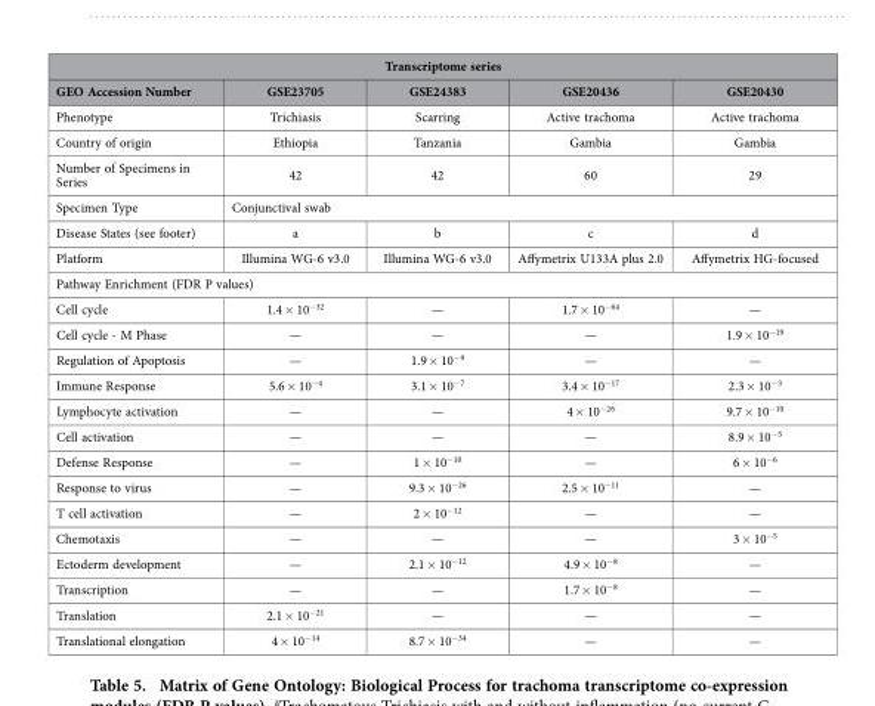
<table><thead><tr><td colspan="5">Transcriptome series</td></tr><tr><td>GEO Accession Number</td><td>GSE23705</td><td>GSE24383</td><td>GSE20436</td><td>GSE20430</td></tr></thead><tbody><tr><td>Phenotype</td><td>Trichiasis</td><td>Scarring</td><td>Active trachoma</td><td>Active trachoma</td></tr><tr><td>Country of origin</td><td>Ethiopia</td><td>Tanzania</td><td>Gambia</td><td>Gambia</td></tr><tr><td>Number of Specimens in Series</td><td>42</td><td>42</td><td>60</td><td>29</td></tr><tr><td>Specimen Type</td><td colspan="4">Conjunctival swab</td></tr><tr><td>Disease States (see footer)</td><td>a</td><td>b</td><td>c</td><td>d</td></tr><tr><td>Platform</td><td>Illumina WG-6 v3.0</td><td>Illumina WG-6 v3.0</td><td>Affymetrix U133A plus 2.0</td><td>Affymetrix HG-focused</td></tr><tr><td colspan="5">Pathway Enrichment (FDR P values)</td></tr><tr><td>Cell cycle</td><td>1.4 × 10<sup>−32</sup></td><td>—</td><td>1.7 × 10<sup>−64</sup></td><td>—</td></tr><tr><td>Cell cycle - M Phase</td><td>—</td><td>—</td><td>—</td><td>1.9 × 10<sup>−19</sup></td></tr><tr><td>Regulation of Apoptosis</td><td>—</td><td>1.9 × 10<sup>−9</sup></td><td>—</td><td>—</td></tr><tr><td>Immune Response</td><td>5.6 × 10<sup>−4</sup></td><td>3.1 × 10<sup>−7</sup></td><td>3.4 × 10<sup>−17</sup></td><td>2.3 × 10<sup>−3</sup></td></tr><tr><td>Lymphocyte activation</td><td>—</td><td>—</td><td>4 × 10<sup>−26</sup></td><td>9.7 × 10<sup>−10</sup></td></tr><tr><td>Cell activation</td><td>—</td><td>—</td><td>—</td><td>8.9 × 10<sup>−5</sup></td></tr><tr><td>Defense Response</td><td>—</td><td>1 × 10<sup>−10</sup></td><td>—</td><td>6 × 10<sup>−6</sup></td></tr><tr><td>Response to virus</td><td>—</td><td>9.3 × 10<sup>−26</sup></td><td>2.5 × 10<sup>−11</sup></td><td>—</td></tr><tr><td>T cell activation</td><td>—</td><td>2 × 10<sup>−12</sup></td><td>—</td><td>—</td></tr><tr><td>Chemotaxis</td><td>—</td><td>—</td><td>—</td><td>3 × 10<sup>−5</sup></td></tr><tr><td>Ectoderm development</td><td>—</td><td>2.1 × 10<sup>−12</sup></td><td>4.9 × 10<sup>−8</sup></td><td>—</td></tr><tr><td>Transcription</td><td>—</td><td>—</td><td>1.7 × 10<sup>−8</sup></td><td>—</td></tr><tr><td>Translation</td><td>2.1 × 10<sup>−21</sup></td><td>—</td><td>—</td><td>—</td></tr><tr><td>Translational elongation</td><td>4 × 10<sup>−14</sup></td><td>8.7 × 10<sup>−34</sup></td><td>—</td><td>—</td></tr></tbody></table>